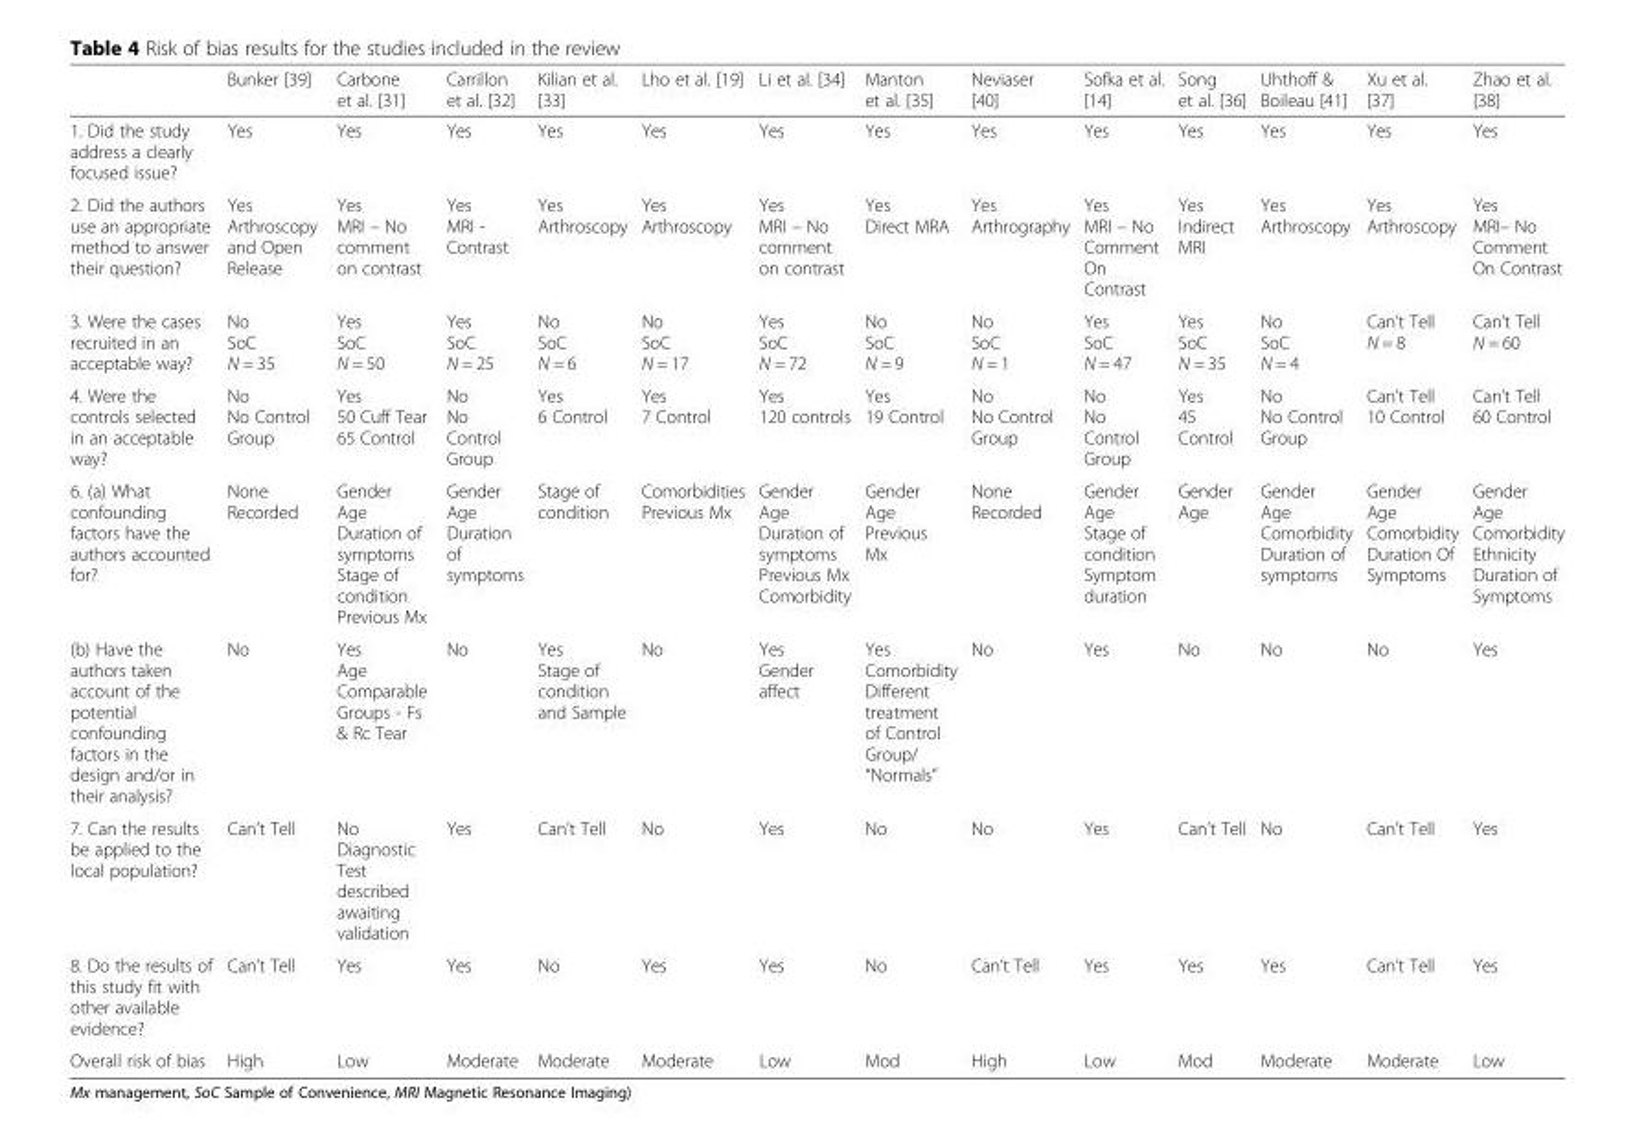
<table><thead><tr><td></td><td>Bunker [39]</td><td>Carbone et al. [31]</td><td>Carrillon et al. [32]</td><td>Kilian et al. [33]</td><td>Lho et al. [19]</td><td>Li et al. [34]</td><td>Manton et al. [35]</td><td>Neviaser [40]</td><td>Sofka et al. [14]</td><td>Song et al. [36]</td><td>Uhthoff &amp; Boileau [41]</td><td>Xu et al. [37]</td><td>Zhao et al. [38]</td></tr></thead><tbody><tr><td>1. Did the study address a clearly focused issue?</td><td>Yes</td><td>Yes</td><td>Yes</td><td>Yes</td><td>Yes</td><td>Yes</td><td>Yes</td><td>Yes</td><td>Yes</td><td>Yes</td><td>Yes</td><td>Yes</td><td>Yes</td></tr><tr><td>2. Did the authors use an appropriate method to answer their question?</td><td>Yes Arthroscopy and Open Release</td><td>Yes MRI – No comment on contrast</td><td>Yes MRI - Contrast</td><td>Yes Arthroscopy</td><td>Yes Arthroscopy</td><td>Yes MRI – No comment on contrast</td><td>Yes Direct MRA</td><td>Yes Arthrography</td><td>Yes MRI – No Comment On Contrast</td><td>Yes Indirect MRI</td><td>Yes Arthroscopy</td><td>Yes Arthroscopy</td><td>Yes MRI– No Comment On Contrast</td></tr><tr><td>3. Were the cases recruited in an acceptable way?</td><td>No SoC N = 35</td><td>Yes SoC N = 50</td><td>Yes SoC N = 25</td><td>No SoC N = 6</td><td>No SoC N = 17</td><td>Yes SoC N = 72</td><td>No SoC N = 9</td><td>No SoC N = 1</td><td>Yes SoC N = 47</td><td>Yes SoC N = 35</td><td>No SoC N = 4</td><td>Can’t Tell N = 8</td><td>Can’t Tell N = 60</td></tr><tr><td>4. Were the controls selected in an acceptable way?</td><td>No No Control Group</td><td>Yes 50 Cuff Tear 65 Control</td><td>No No Control Group</td><td>Yes 6 Control</td><td>Yes 7 Control</td><td>Yes 120 controls</td><td>Yes 19 Control</td><td>No No Control Group</td><td>No No Control Group</td><td>Yes 45 Control</td><td>No No Control Group</td><td>Can’t Tell 10 Control</td><td>Can’t Tell 60 Control</td></tr><tr><td>6. (a) What confounding factors have the authors accounted for?</td><td>None Recorded</td><td>Gender Age Duration of symptoms Stage of condition Previous Mx</td><td>Gender Age Duration of symptoms</td><td>Stage of condition</td><td>Comorbidities Previous Mx</td><td>Gender Age Duration of symptoms Previous Mx Comorbidity</td><td>Gender Age Previous Mx</td><td>None Recorded</td><td>Gender Age Stage of condition Symptom duration</td><td>Gender Age</td><td>Gender Age Comorbidity Duration of symptoms</td><td>Gender Age Comorbidity Duration Of Symptoms</td><td>Gender Age Comorbidity Ethnicity Duration of Symptoms</td></tr><tr><td>(b) Have the authors taken account of the potential confounding factors in the design and/or in their analysis?</td><td>No</td><td>Yes Age Comparable Groups - Fs &amp; Rc Tear</td><td>No</td><td>Yes Stage of condition and Sample</td><td>No</td><td>Yes Gender affect</td><td>Yes Comorbidity Different treatment of Control Group/ “Normals”</td><td>No</td><td>Yes</td><td>No</td><td>No</td><td>No</td><td>Yes</td></tr><tr><td>7. Can the results be applied to the local population?</td><td>Can’t Tell</td><td>No Diagnostic Test described awaiting validation</td><td>Yes</td><td>Can’t Tell</td><td>No</td><td>Yes</td><td>No</td><td>No</td><td>Yes</td><td>Can’t Tell</td><td>No</td><td>Can’t Tell</td><td>Yes</td></tr><tr><td>8. Do the results of this study fit with other available evidence?</td><td>Can’t Tell</td><td>Yes</td><td>Yes</td><td>No</td><td>Yes</td><td>Yes</td><td>No</td><td>Can’t Tell</td><td>Yes</td><td>Yes</td><td>Yes</td><td>Can’t Tell</td><td>Yes</td></tr><tr><td>Overall risk of bias</td><td>High</td><td>Low</td><td>Moderate</td><td>Moderate</td><td>Moderate</td><td>Low</td><td>Mod</td><td>High</td><td>Low</td><td>Mod</td><td>Moderate</td><td>Moderate</td><td>Low</td></tr></tbody></table>